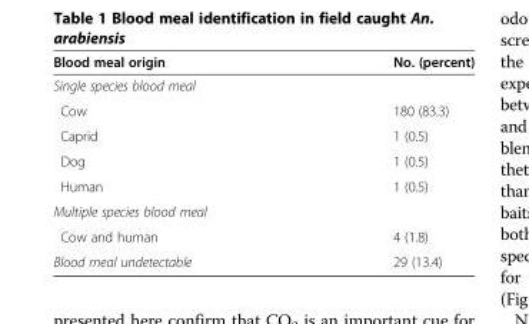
<table><thead><tr><td>Blood meal origin</td><td>No. (percent)</td></tr></thead><tbody><tr><td colspan="2">Single species blood meal</td></tr><tr><td>Cow</td><td>180 (83.3)</td></tr><tr><td>Caprid</td><td>1 (0.5)</td></tr><tr><td>Dog</td><td>1 (0.5)</td></tr><tr><td>Human</td><td>1 (0.5)</td></tr><tr><td colspan="2">Multiple species blood meal</td></tr><tr><td>Cow and human</td><td>4 (1.8)</td></tr><tr><td>Blood meal undetectable</td><td>29 (13.4)</td></tr></tbody></table>